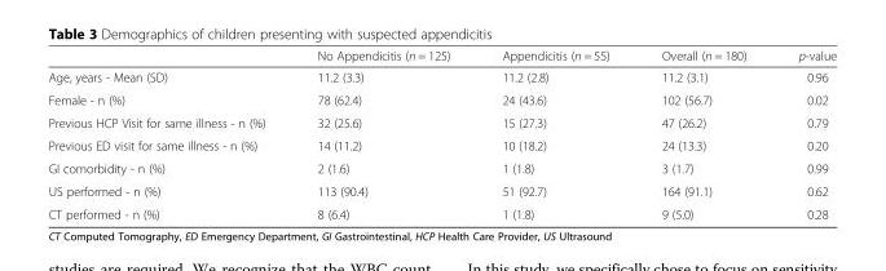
<table><thead><tr><td></td><td>No Appendicitis (n = 125)</td><td>Appendicitis (n = 55)</td><td>Overall (n = 180)</td><td>p-value</td></tr></thead><tbody><tr><td>Age, years - Mean (SD)</td><td>11.2 (3.3)</td><td>11.2 (2.8)</td><td>11.2 (3.1)</td><td>0.96</td></tr><tr><td>Female - n (%)</td><td>78 (62.4)</td><td>24 (43.6)</td><td>102 (56.7)</td><td>0.02</td></tr><tr><td>Previous HCP Visit for same illness - n (%)</td><td>32 (25.6)</td><td>15 (27.3)</td><td>47 (26.2)</td><td>0.79</td></tr><tr><td>Previous ED visit for same illness - n (%)</td><td>14 (11.2)</td><td>10 (18.2)</td><td>24 (13.3)</td><td>0.20</td></tr><tr><td>GI comorbidity - n (%)</td><td>2 (1.6)</td><td>1 (1.8)</td><td>3 (1.7)</td><td>0.99</td></tr><tr><td>US performed - n (%)</td><td>113 (90.4)</td><td>51 (92.7)</td><td>164 (91.1)</td><td>0.62</td></tr><tr><td>CT performed - n (%)</td><td>8 (6.4)</td><td>1 (1.8)</td><td>9 (5.0)</td><td>0.28</td></tr></tbody></table>